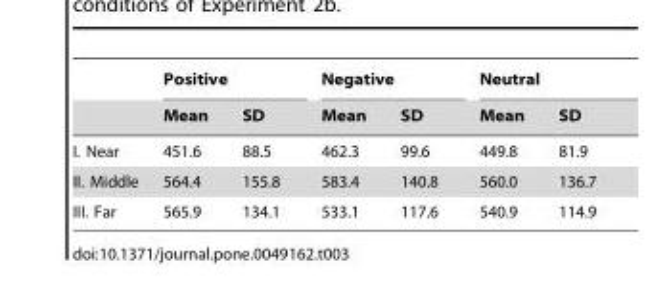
<table><thead><tr><td rowspan="2"></td><td colspan="2">Positive</td><td colspan="2">Negative</td><td colspan="2">Neutral</td></tr><tr><td>Mean</td><td>SD</td><td>Mean</td><td>SD</td><td>Mean</td><td>SD</td></tr></thead><tbody><tr><td>I. Near</td><td>451.6</td><td>88.5</td><td>462.3</td><td>99.6</td><td>449.8</td><td>81.9</td></tr><tr><td>II. Middle</td><td>564.4</td><td>155.8</td><td>583.4</td><td>140.8</td><td>560.0</td><td>136.7</td></tr><tr><td>III. Far</td><td>565.9</td><td>134.1</td><td>533.1</td><td>117.6</td><td>540.9</td><td>114.9</td></tr></tbody></table>